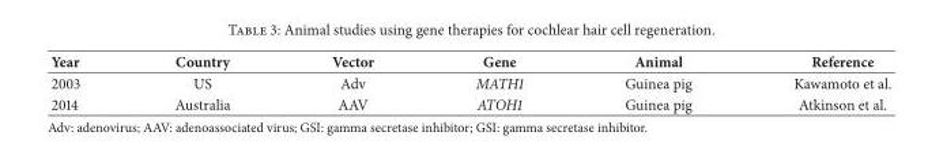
<table><thead><tr><td>Year</td><td>Country</td><td>Vector</td><td>Gene</td><td>Animal</td><td>Reference</td></tr></thead><tbody><tr><td>2003</td><td>US</td><td>Adv</td><td>MATH1</td><td>Guinea pig</td><td>Kawamoto et al.</td></tr><tr><td>2014</td><td>Australia</td><td>AAV</td><td>ATOH1</td><td>Guinea pig</td><td>Atkinson et al.</td></tr></tbody></table>